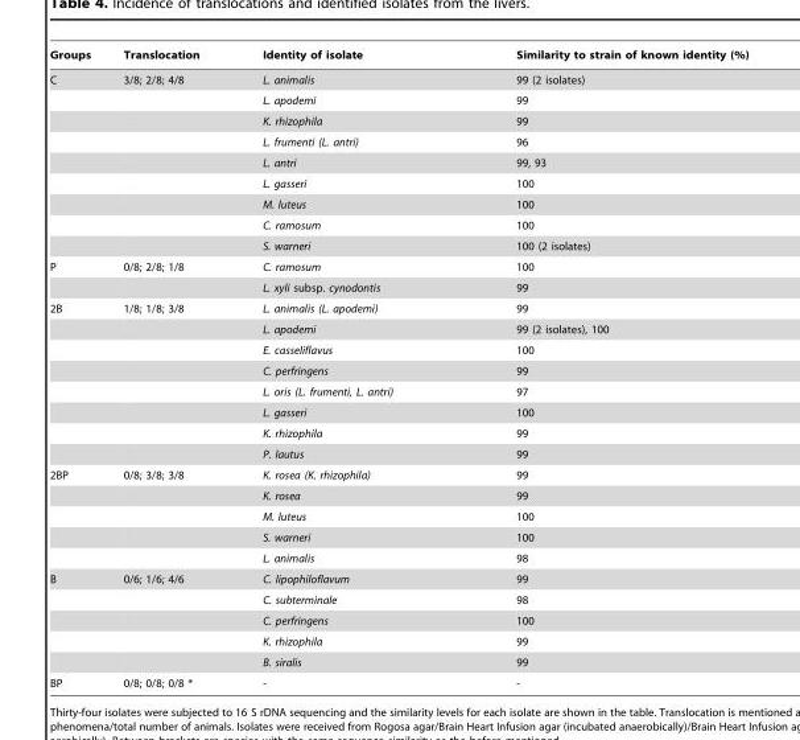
<table><thead><tr><td>Groups</td><td>Translocation</td><td>Identity of isolate</td><td>Similarity to strain of known identity (%)</td></tr></thead><tbody><tr><td rowspan="9">C</td><td>3/8; 2/8; 4/8</td><td>L. animalis</td><td>99 (2 isolates)</td></tr><tr><td></td><td>L. apodemi</td><td>99</td></tr><tr><td></td><td>K. rhizophila</td><td>99</td></tr><tr><td></td><td>L. frumenti (L. antri)</td><td>96</td></tr><tr><td></td><td>L. antri</td><td>99, 93</td></tr><tr><td></td><td>L. gasseri</td><td>100</td></tr><tr><td></td><td>M. luteus</td><td>100</td></tr><tr><td></td><td>C. ramosum</td><td>100</td></tr><tr><td></td><td>S. warneri</td><td>100 (2 isolates)</td></tr><tr><td rowspan="2">P</td><td>0/8; 2/8; 1/8</td><td>C. ramosum</td><td>100</td></tr><tr><td></td><td>L. xyli subsp. cynodontis</td><td>99</td></tr><tr><td rowspan="8">2B</td><td>1/8; 1/8; 3/8</td><td>L. animalis (L. apodemi)</td><td>99</td></tr><tr><td></td><td>L. apodemi</td><td>99 (2 isolates), 100</td></tr><tr><td></td><td>E. casseliflavus</td><td>100</td></tr><tr><td></td><td>C. perfringens</td><td>99</td></tr><tr><td></td><td>L. oris (L. frumenti, L. antri)</td><td>97</td></tr><tr><td></td><td>L. gasseri</td><td>100</td></tr><tr><td></td><td>K. rhizophila</td><td>99</td></tr><tr><td></td><td>P. lautus</td><td>99</td></tr><tr><td rowspan="5">2BP</td><td>0/8; 3/8; 3/8</td><td>K. rosea (K. rhizophila)</td><td>99</td></tr><tr><td></td><td>K. rosea</td><td>99</td></tr><tr><td></td><td>M. luteus</td><td>100</td></tr><tr><td></td><td>S. warneri</td><td>100</td></tr><tr><td></td><td>L. animalis</td><td>98</td></tr><tr><td rowspan="5">B</td><td>0/6; 1/6; 4/6</td><td>C. lipophiloflavum</td><td>99</td></tr><tr><td></td><td>C. subterminale</td><td>98</td></tr><tr><td></td><td>C. perfringens</td><td>100</td></tr><tr><td></td><td>K. rhizophila</td><td>99</td></tr><tr><td></td><td>B. siralis</td><td>99</td></tr><tr><td>BP</td><td>0/8; 0/8; 0/8 *</td><td>-</td><td>-</td></tr></tbody></table>